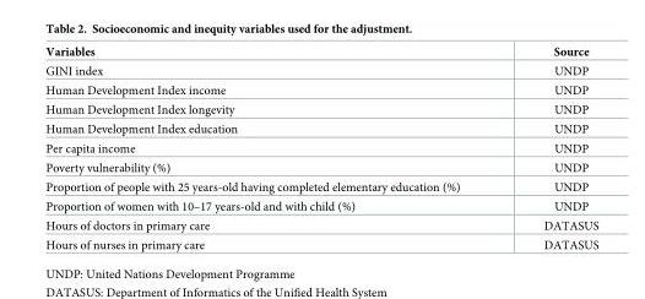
<table><thead><tr><td>Variables</td><td>Source</td></tr></thead><tbody><tr><td>GINI index</td><td>UNDP</td></tr><tr><td>Human Development Index income</td><td>UNDP</td></tr><tr><td>Human Development Index longevity</td><td>UNDP</td></tr><tr><td>Human Development Index education</td><td>UNDP</td></tr><tr><td>Per capita income</td><td>UNDP</td></tr><tr><td>Poverty vulnerability (%)</td><td>UNDP</td></tr><tr><td>Proportion of people with 25 years-old having completed elementary education (%)</td><td>UNDP</td></tr><tr><td>Proportion of women with 10–17 years-old and with child (%)</td><td>UNDP</td></tr><tr><td>Hours of doctors in primary care</td><td>DATASUS</td></tr><tr><td>Hours of nurses in primary care</td><td>DATASUS</td></tr></tbody></table>